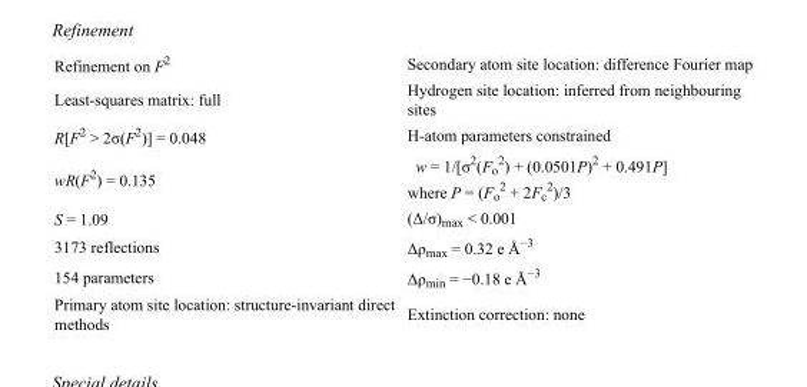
<table><tbody><tr><td>Refinement on F<sup>2</sup></td><td>Secondary atom site location: difference Fourier map</td></tr><tr><td>Least-squares matrix: full</td><td>Hydrogen site location: inferred from neighbouring sites</td></tr><tr><td>R[F<sup>2</sup> &gt; 2σ(F<sup>2</sup>)] = 0.048</td><td>H-atom parameters constrained</td></tr><tr><td>wR(F<sup>2</sup>) = 0.135</td><td>w = 1/[σ<sup>2</sup>(F<sub>o</sub> <sup>2</sup>) + (0.0501P)<sup>2</sup> + 0.491P] where P = (F<sub>o</sub> <sup>2</sup> + 2F<sub>c</sub> <sup>2</sup>)/3</td></tr><tr><td>S = 1.09</td><td>(Δ/σ)<sub>max</sub> &lt; 0.001</td></tr><tr><td>3173 reflections</td><td>Δρ<sub>max</sub> = 0.32 e Å<sup>−3</sup></td></tr><tr><td>154 parameters</td><td>Δρ<sub>min</sub> = −0.18 e Å<sup>−3</sup></td></tr><tr><td>Primary atom site location: structure-invariant direct methods</td><td>Extinction correction: none</td></tr></tbody></table>